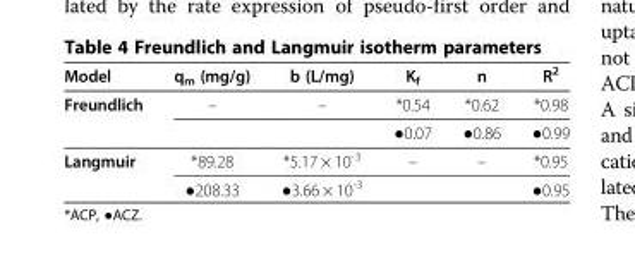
<table><thead><tr><td>Model</td><td>q<sub>m</sub> (mg/g)</td><td>b (L/mg)</td><td>K<sub>f</sub></td><td>n</td><td>R<sup>2</sup></td></tr></thead><tbody><tr><td rowspan="2">Freundlich</td><td>–</td><td>–</td><td>*0.54</td><td>*0.62</td><td>*0.98</td></tr><tr><td></td><td></td><td>●0.07</td><td>●0.86</td><td>●0.99</td></tr><tr><td rowspan="2">Langmuir</td><td>*89.28</td><td>*5.17 × 10<sup>-3</sup></td><td>–</td><td>–</td><td>*0.95</td></tr><tr><td>●208.33</td><td>●3.66 × 10<sup>-3</sup></td><td></td><td></td><td>●0.95</td></tr></tbody></table>